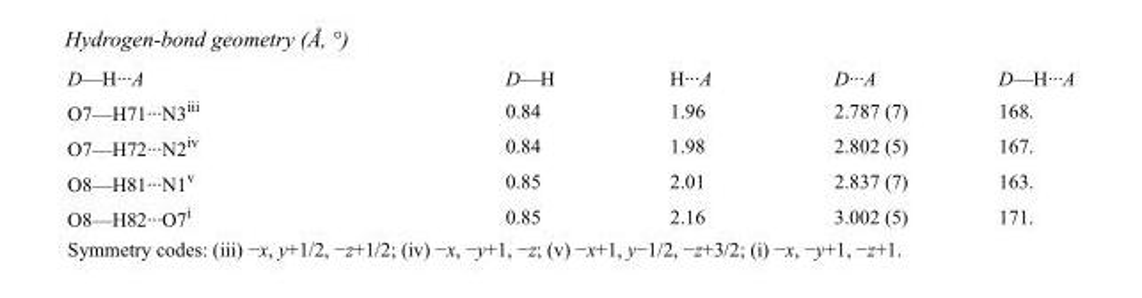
<table><tbody><tr><td>D—H···A</td><td>D—H</td><td>H···A</td><td>D···A</td><td>D—H···A</td></tr><tr><td>O7—H71···N3<sup>iii</sup></td><td>0.84</td><td>1.96</td><td>2.787 (7)</td><td>168.</td></tr><tr><td>O7—H72···N2<sup>iv</sup></td><td>0.84</td><td>1.98</td><td>2.802 (5)</td><td>167.</td></tr><tr><td>O8—H81···N1<sup>v</sup></td><td>0.85</td><td>2.01</td><td>2.837 (7)</td><td>163.</td></tr><tr><td>O8—H82···O7<sup>i</sup></td><td>0.85</td><td>2.16</td><td>3.002 (5)</td><td>171.</td></tr></tbody></table>